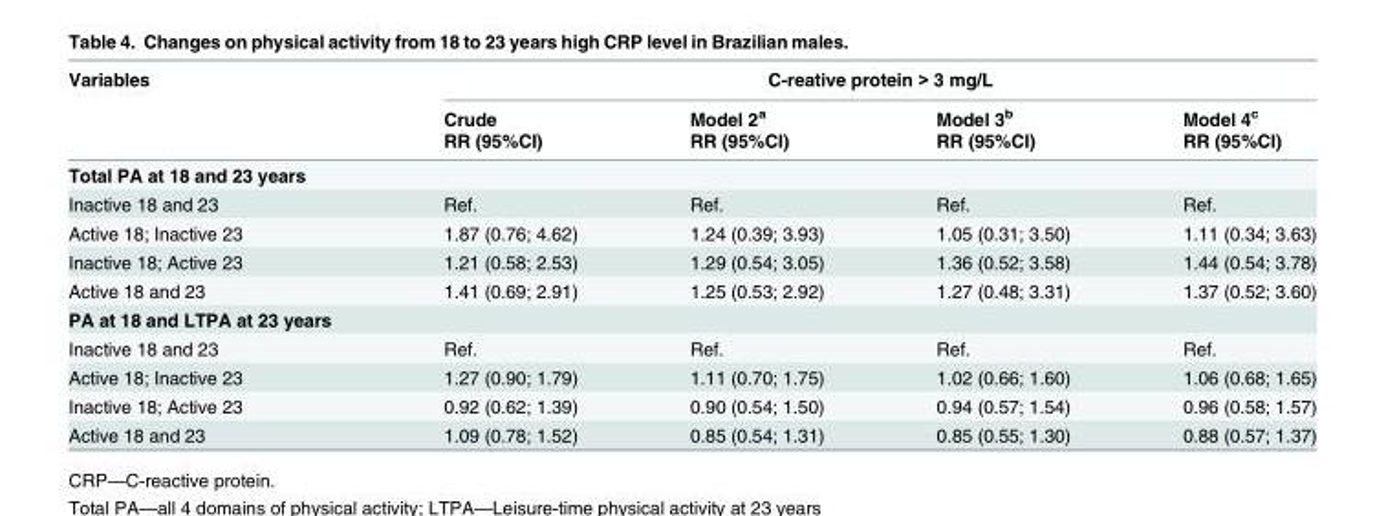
<table><thead><tr><td rowspan="3">Variables</td><td colspan="4">C-reative protein &gt; 3 mg/L</td></tr><tr><td rowspan="2">Crude RR (95%CI)</td><td rowspan="2">Model 2<sup>a</sup> RR (95%CI)</td><td rowspan="2">Model 3<sup>b</sup> RR (95%CI)</td><td rowspan="2">Model 4<sup>c</sup> RR (95%CI)</td></tr><tr></tr></thead><tbody><tr><td colspan="5">Total PA at 18 and 23 years</td></tr><tr><td>Inactive 18 and 23</td><td>Ref.</td><td>Ref.</td><td>Ref.</td><td>Ref.</td></tr><tr><td>Active 18; Inactive 23</td><td>1.87 (0.76; 4.62)</td><td>1.24 (0.39; 3.93)</td><td>1.05 (0.31; 3.50)</td><td>1.11 (0.34; 3.63)</td></tr><tr><td>Inactive 18; Active 23</td><td>1.21 (0.58; 2.53)</td><td>1.29 (0.54; 3.05)</td><td>1.36 (0.52; 3.58)</td><td>1.44 (0.54; 3.78)</td></tr><tr><td>Active 18 and 23</td><td>1.41 (0.69; 2.91)</td><td>1.25 (0.53; 2.92)</td><td>1.27 (0.48; 3.31)</td><td>1.37 (0.52; 3.60)</td></tr><tr><td colspan="5">PA at 18 and LTPA at 23 years</td></tr><tr><td>Inactive 18 and 23</td><td>Ref.</td><td>Ref.</td><td>Ref.</td><td>Ref.</td></tr><tr><td>Active 18; Inactive 23</td><td>1.27 (0.90; 1.79)</td><td>1.11 (0.70; 1.75)</td><td>1.02 (0.66; 1.60)</td><td>1.06 (0.68; 1.65)</td></tr><tr><td>Inactive 18; Active 23</td><td>0.92 (0.62; 1.39)</td><td>0.90 (0.54; 1.50)</td><td>0.94 (0.57; 1.54)</td><td>0.96 (0.58; 1.57)</td></tr><tr><td>Active 18 and 23</td><td>1.09 (0.78; 1.52)</td><td>0.85 (0.54; 1.31)</td><td>0.85 (0.55; 1.30)</td><td>0.88 (0.57; 1.37)</td></tr></tbody></table>